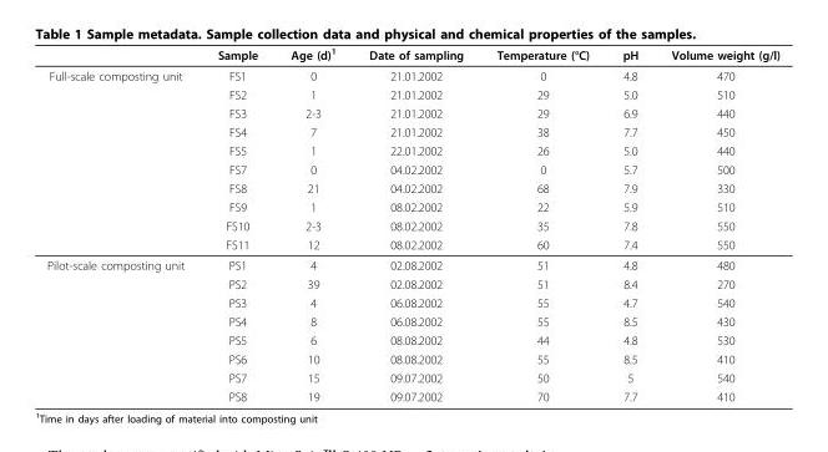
<table><thead><tr><td></td><td>Sample</td><td>Age (d)<sup>1</sup></td><td>Date of sampling</td><td>Temperature (°C)</td><td>pH</td><td>Volume weight (g/l)</td></tr></thead><tbody><tr><td rowspan="10">Full-scale composting unit</td><td>FS1</td><td>0</td><td>21.01.2002</td><td>0</td><td>4.8</td><td>470</td></tr><tr><td>FS2</td><td>1</td><td>21.01.2002</td><td>29</td><td>5.0</td><td>510</td></tr><tr><td>FS3</td><td>2-3</td><td>21.01.2002</td><td>29</td><td>6.9</td><td>440</td></tr><tr><td>FS4</td><td>7</td><td>21.01.2002</td><td>38</td><td>7.7</td><td>450</td></tr><tr><td>FS5</td><td>1</td><td>22.01.2002</td><td>26</td><td>5.0</td><td>440</td></tr><tr><td>FS7</td><td>0</td><td>04.02.2002</td><td>0</td><td>5.7</td><td>500</td></tr><tr><td>FS8</td><td>21</td><td>04.02.2002</td><td>68</td><td>7.9</td><td>330</td></tr><tr><td>FS9</td><td>1</td><td>08.02.2002</td><td>22</td><td>5.9</td><td>510</td></tr><tr><td>FS10</td><td>2-3</td><td>08.02.2002</td><td>35</td><td>7.8</td><td>550</td></tr><tr><td>FS11</td><td>12</td><td>08.02.2002</td><td>60</td><td>7.4</td><td>550</td></tr><tr><td rowspan="8">Pilot-scale composting unit</td><td>PS1</td><td>4</td><td>02.08.2002</td><td>51</td><td>4.8</td><td>480</td></tr><tr><td>PS2</td><td>39</td><td>02.08.2002</td><td>51</td><td>8.4</td><td>270</td></tr><tr><td>PS3</td><td>4</td><td>06.08.2002</td><td>55</td><td>4.7</td><td>540</td></tr><tr><td>PS4</td><td>8</td><td>06.08.2002</td><td>55</td><td>8.5</td><td>430</td></tr><tr><td>PS5</td><td>6</td><td>08.08.2002</td><td>44</td><td>4.8</td><td>530</td></tr><tr><td>PS6</td><td>10</td><td>08.08.2002</td><td>55</td><td>8.5</td><td>410</td></tr><tr><td>PS7</td><td>15</td><td>09.07.2002</td><td>50</td><td>5</td><td>540</td></tr><tr><td>PS8</td><td>19</td><td>09.07.2002</td><td>70</td><td>7.7</td><td>410</td></tr></tbody></table>